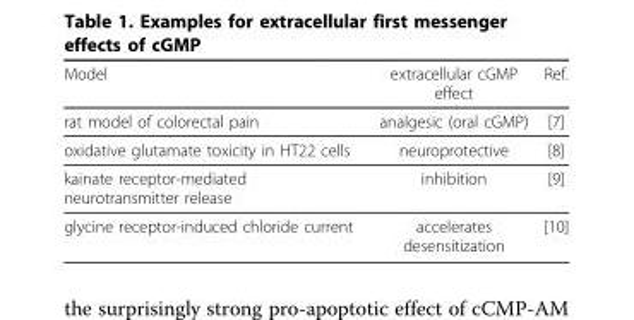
<table><thead><tr><td>Model</td><td>extracellular cGMP effect</td><td>Ref.</td></tr></thead><tbody><tr><td>rat model of colorectal pain</td><td>analgesic (oral cGMP)</td><td>[7]</td></tr><tr><td>oxidative glutamate toxicity in HT22 cells</td><td>neuroprotective</td><td>[8]</td></tr><tr><td>kainate receptor-mediated neurotransmitter release</td><td>inhibition</td><td>[9]</td></tr><tr><td>glycine receptor-induced chloride current</td><td>accelerates desensitization</td><td>[10]</td></tr></tbody></table>